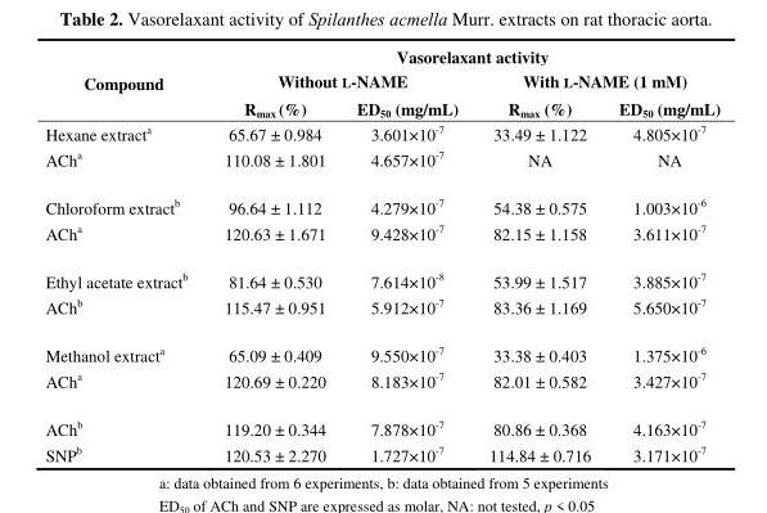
<table><thead><tr><td rowspan="3">Compound</td><td colspan="4">Vasorelaxant activity</td></tr><tr><td colspan="2">Without L-NAME</td><td colspan="2">With L-NAME (1 mM)</td></tr><tr><td>R<sub>max</sub> (%)</td><td>ED<sub>50</sub> (mg/mL)</td><td>R<sub>max</sub> (%)</td><td>ED<sub>50</sub> (mg/mL)</td></tr></thead><tbody><tr><td>Hexane extract<sup>a</sup></td><td>65.67 ± 0.984</td><td>3.601×10<sup>-7</sup></td><td>33.49 ± 1.122</td><td>4.805×10<sup>-7</sup></td></tr><tr><td>ACh<sup>a</sup></td><td>110.08 ± 1.801</td><td>4.657×10<sup>-7</sup></td><td>NA</td><td>NA</td></tr><tr><td>Chloroform extract<sup>b</sup></td><td>96.64 ± 1.112</td><td>4.279×10<sup>-7</sup></td><td>54.38 ± 0.575</td><td>1.003×10<sup>-6</sup></td></tr><tr><td>ACh<sup>a</sup></td><td>120.63 ± 1.671</td><td>9.428×10<sup>-7</sup></td><td>82.15 ± 1.158</td><td>3.611×10<sup>-7</sup></td></tr><tr><td>Ethyl acetate extract<sup>b</sup></td><td>81.64 ± 0.530</td><td>7.614×10<sup>-8</sup></td><td>53.99 ± 1.517</td><td>3.885×10<sup>-7</sup></td></tr><tr><td>ACh<sup>b</sup></td><td>115.47 ± 0.951</td><td>5.912×10<sup>-7</sup></td><td>83.36 ± 1.169</td><td>5.650×10<sup>-7</sup></td></tr><tr><td>Methanol extract<sup>a</sup></td><td>65.09 ± 0.409</td><td>9.550×10<sup>-7</sup></td><td>33.38 ± 0.403</td><td>1.375×10<sup>-6</sup></td></tr><tr><td>ACh<sup>a</sup></td><td>120.69 ± 0.220</td><td>8.183×10<sup>-7</sup></td><td>82.01 ± 0.582</td><td>3.427×10<sup>-7</sup></td></tr><tr><td>ACh<sup>b</sup></td><td>119.20 ± 0.344</td><td>7.878×10<sup>-7</sup></td><td>80.86 ± 0.368</td><td>4.163×10<sup>-7</sup></td></tr><tr><td>SNP<sup>b</sup></td><td>120.53 ± 2.270</td><td>1.727×10<sup>-7</sup></td><td>114.84 ± 0.716</td><td>3.171×10<sup>-7</sup></td></tr></tbody></table>